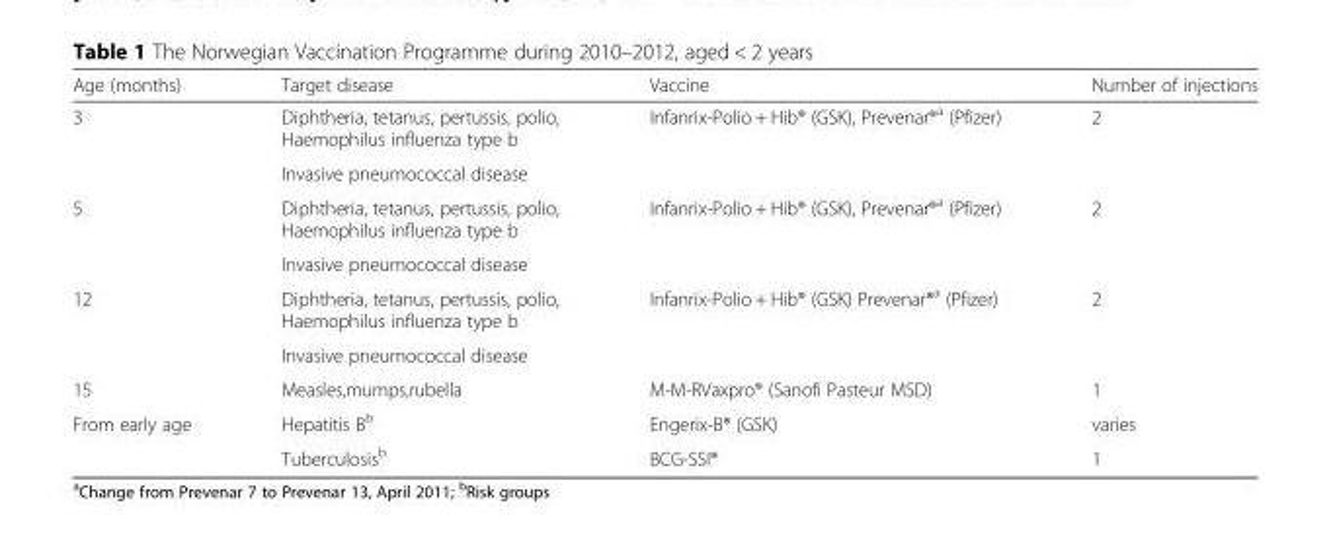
<table><thead><tr><td>Age (months)</td><td>Target disease</td><td>Vaccine</td><td>Number of injections</td></tr></thead><tbody><tr><td rowspan="2">3</td><td>Diphtheria, tetanus, pertussis, polio, Haemophilus influenza type b</td><td rowspan="2">Infanrix-Polio + Hib® (GSK), Prevenar®<sup>a</sup> (Pfizer)</td><td rowspan="2">2</td></tr><tr><td>Invasive pneumococcal disease</td></tr><tr><td rowspan="2">5</td><td>Diphtheria, tetanus, pertussis, polio, Haemophilus influenza type b</td><td rowspan="2">Infanrix-Polio + Hib® (GSK), Prevenar®<sup>a</sup> (Pfizer)</td><td rowspan="2">2</td></tr><tr><td>Invasive pneumococcal disease</td></tr><tr><td rowspan="2">12</td><td>Diphtheria, tetanus, pertussis, polio, Haemophilus influenza type b</td><td rowspan="2">Infanrix-Polio + Hib® (GSK) Prevenar®<sup>a</sup> (Pfizer)</td><td rowspan="2">2</td></tr><tr><td>Invasive pneumococcal disease</td></tr><tr><td>15</td><td>Measles,mumps,rubella</td><td>M-M-RVaxpro® (Sanofi Pasteur MSD)</td><td>1</td></tr><tr><td rowspan="2">From early age</td><td>Hepatitis B<sup>b</sup></td><td>Engerix-B® (GSK)</td><td>varies</td></tr><tr><td>Tuberculosis<sup>b</sup></td><td>BCG-SSI®</td><td>1</td></tr></tbody></table>